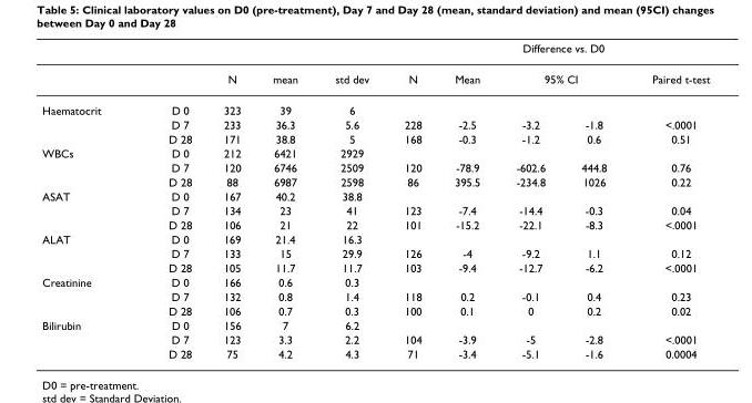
<table><thead><tr><td rowspan="3">Haematocrit</td><td rowspan="3">D 0</td><td rowspan="3">N 323</td><td rowspan="3">mean 39</td><td rowspan="3">std dev 6</td><td colspan="5">Difference vs. D0</td></tr><tr><td rowspan="2">N</td><td rowspan="2">Mean</td><td colspan="2">95% CI</td><td rowspan="2">Paired t-test</td></tr><tr><td></td><td></td></tr></thead><tbody><tr><td></td><td>D 7</td><td>233</td><td>36.3</td><td>5.6</td><td>228</td><td>-2.5</td><td>-3.2</td><td>-1.8</td><td>&lt;.0001</td></tr><tr><td></td><td>D 28</td><td>171</td><td>38.8</td><td>5</td><td>168</td><td>-0.3</td><td>-1.2</td><td>0.6</td><td>0.51</td></tr><tr><td rowspan="3">WBCs</td><td>D 0</td><td>212</td><td>6421</td><td>2929</td><td></td><td></td><td></td><td></td><td></td></tr><tr><td>D 7</td><td>120</td><td>6746</td><td>2509</td><td>120</td><td>-78.9</td><td>-602.6</td><td>444.8</td><td>0.76</td></tr><tr><td>D 28</td><td>88</td><td>6987</td><td>2598</td><td>86</td><td>395.5</td><td>-234.8</td><td>1026</td><td>0.22</td></tr><tr><td rowspan="3">ASAT</td><td>D 0</td><td>167</td><td>40.2</td><td>38.8</td><td></td><td></td><td></td><td></td><td></td></tr><tr><td>D 7</td><td>134</td><td>23</td><td>41</td><td>123</td><td>-7.4</td><td>-14.4</td><td>-0.3</td><td>0.04</td></tr><tr><td>D 28</td><td>106</td><td>21</td><td>22</td><td>101</td><td>-15.2</td><td>-22.1</td><td>-8.3</td><td>&lt;.0001</td></tr><tr><td rowspan="3">ALAT</td><td>D 0</td><td>169</td><td>21.4</td><td>16.3</td><td></td><td></td><td></td><td></td><td></td></tr><tr><td>D 7</td><td>133</td><td>15</td><td>29.9</td><td>126</td><td>-4</td><td>-9.2</td><td>1.1</td><td>0.12</td></tr><tr><td>D 28</td><td>105</td><td>11.7</td><td>11.7</td><td>103</td><td>-9.4</td><td>-12.7</td><td>-6.2</td><td>&lt;.0001</td></tr><tr><td rowspan="3">Creatinine</td><td>D 0</td><td>166</td><td>0.6</td><td>0.3</td><td></td><td></td><td></td><td></td><td></td></tr><tr><td>D 7</td><td>132</td><td>0.8</td><td>1.4</td><td>118</td><td>0.2</td><td>-0.1</td><td>0.4</td><td>0.23</td></tr><tr><td>D 28</td><td>106</td><td>0.7</td><td>0.3</td><td>100</td><td>0.1</td><td>0</td><td>0.2</td><td>0.02</td></tr><tr><td rowspan="3">Bilirubin</td><td>D 0</td><td>156</td><td>7</td><td>6.2</td><td></td><td></td><td></td><td></td><td></td></tr><tr><td>D 7</td><td>123</td><td>3.3</td><td>2.2</td><td>104</td><td>-3.9</td><td>-5</td><td>-2.8</td><td>&lt;.0001</td></tr><tr><td>D 28</td><td>75</td><td>4.2</td><td>4.3</td><td>71</td><td>-3.4</td><td>-5.1</td><td>-1.6</td><td>0.0004</td></tr></tbody></table>